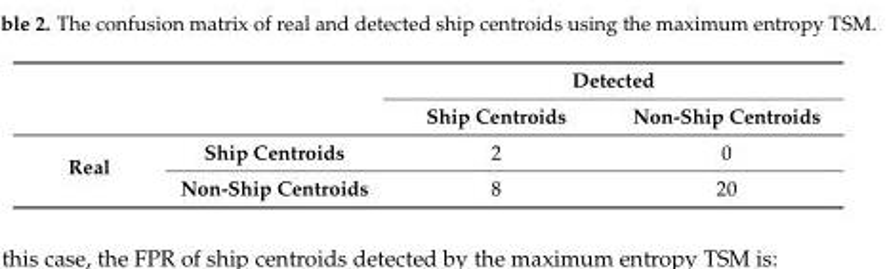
<table><thead><tr><td rowspan="2"></td><td rowspan="2"></td><td colspan="2">Detected</td></tr><tr><td>Ship Centroids</td><td>Non-Ship Centroids</td></tr></thead><tbody><tr><td rowspan="2">Real</td><td>Ship Centroids</td><td>2</td><td>0</td></tr><tr><td>Non-Ship Centroids</td><td>8</td><td>20</td></tr></tbody></table>